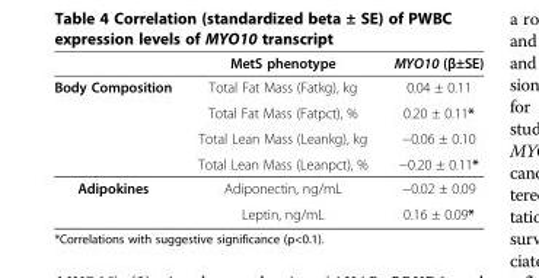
<table><thead><tr><td></td><td>MetS phenotype</td><td>MYO10 (β±SE)</td></tr></thead><tbody><tr><td rowspan="4">Body Composition</td><td>Total Fat Mass (Fatkg), kg</td><td>0.04 ± 0.11</td></tr><tr><td>Total Fat Mass (Fatpct), %</td><td>0.20 ± 0.11*</td></tr><tr><td>Total Lean Mass (Leankg), kg</td><td>−0.06 ± 0.10</td></tr><tr><td>Total Lean Mass (Leanpct), %</td><td>−0.20 ± 0.11*</td></tr><tr><td rowspan="2">Adipokines</td><td>Adiponectin, ng/mL</td><td>−0.02 ± 0.09</td></tr><tr><td>Leptin, ng/mL</td><td>0.16 ± 0.09*</td></tr></tbody></table>